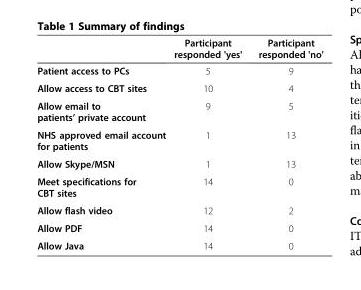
<table><thead><tr><td></td><td>Participant responded &#x27;yes&#x27;</td><td>Participant responded &#x27;no&#x27;</td></tr></thead><tbody><tr><td>Patient access to PCs</td><td>5</td><td>9</td></tr><tr><td>Allow access to CBT sites</td><td>10</td><td>4</td></tr><tr><td>Allow email to patients’ private account</td><td>9</td><td>5</td></tr><tr><td>NHS approved email account for patients</td><td>1</td><td>13</td></tr><tr><td>Allow Skype/MSN</td><td>1</td><td>13</td></tr><tr><td>Meet specifications for CBT sites</td><td>14</td><td>0</td></tr><tr><td>Allow flash video</td><td>12</td><td>2</td></tr><tr><td>Allow PDF</td><td>14</td><td>0</td></tr><tr><td>Allow Java</td><td>14</td><td>0</td></tr></tbody></table>